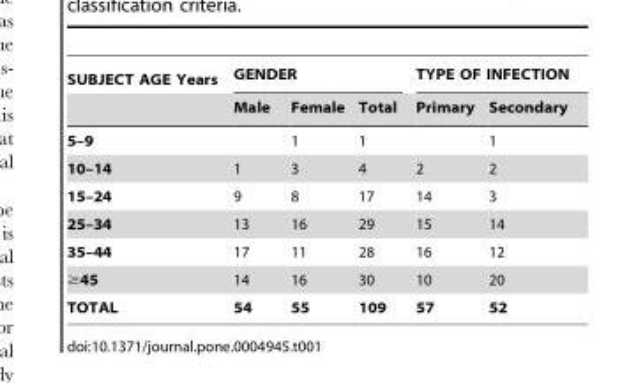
<table><thead><tr><td rowspan="2">SUBJECT AGE Years</td><td colspan="3">GENDER</td><td colspan="2">TYPE OF INFECTION</td></tr><tr><td>Male</td><td>Female</td><td>Total</td><td>Primary</td><td>Secondary</td></tr></thead><tbody><tr><td>5–9</td><td></td><td>1</td><td>1</td><td></td><td>1</td></tr><tr><td>10–14</td><td>1</td><td>3</td><td>4</td><td>2</td><td>2</td></tr><tr><td>15–24</td><td>9</td><td>8</td><td>17</td><td>14</td><td>3</td></tr><tr><td>25–34</td><td>13</td><td>16</td><td>29</td><td>15</td><td>14</td></tr><tr><td>35–44</td><td>17</td><td>11</td><td>28</td><td>16</td><td>12</td></tr><tr><td>≥45</td><td>14</td><td>16</td><td>30</td><td>10</td><td>20</td></tr><tr><td>TOTAL</td><td>54</td><td>55</td><td>109</td><td>57</td><td>52</td></tr></tbody></table>